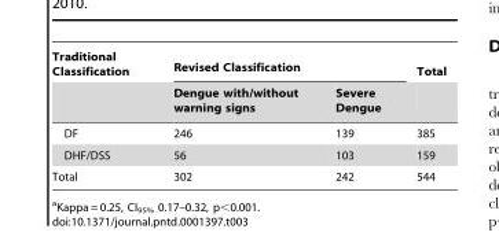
<table><thead><tr><td rowspan="2">Traditional Classification</td><td colspan="2">Revised Classification</td><td rowspan="2">Total</td></tr><tr><td>Dengue with/without warning signs</td><td>Severe Dengue</td></tr></thead><tbody><tr><td>DF</td><td>246</td><td>139</td><td>385</td></tr><tr><td>DHF/DSS</td><td>56</td><td>103</td><td>159</td></tr><tr><td>Total</td><td>302</td><td>242</td><td>544</td></tr></tbody></table>